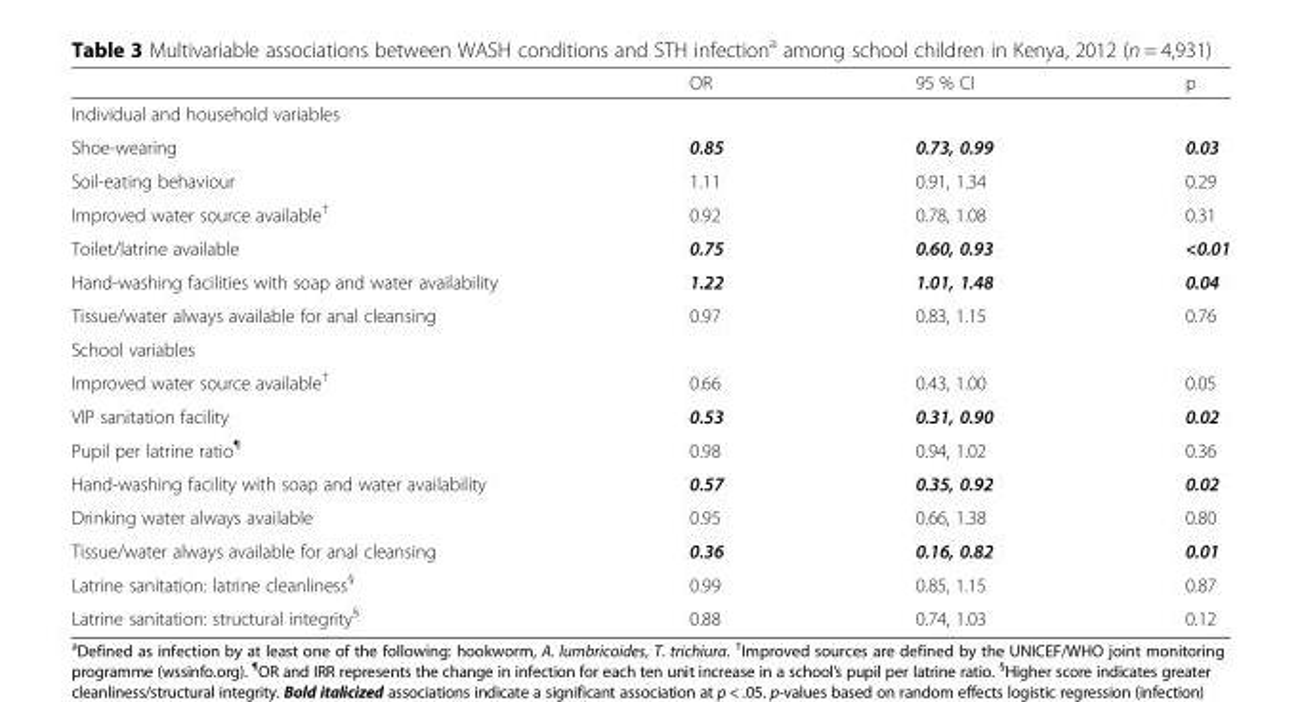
<table><thead><tr><td></td><td>OR</td><td>95 % CI</td><td>p</td></tr></thead><tbody><tr><td colspan="4">Individual and household variables</td></tr><tr><td>Shoe-wearing</td><td>0.85</td><td>0.73, 0.99</td><td>0.03</td></tr><tr><td>Soil-eating behaviour</td><td>1.11</td><td>0.91, 1.34</td><td>0.29</td></tr><tr><td>Improved water source available<sup>†</sup></td><td>0.92</td><td>0.78, 1.08</td><td>0.31</td></tr><tr><td>Toilet/latrine available</td><td>0.75</td><td>0.60, 0.93</td><td>&lt;0.01</td></tr><tr><td>Hand-washing facilities with soap and water availability</td><td>1.22</td><td>1.01, 1.48</td><td>0.04</td></tr><tr><td>Tissue/water always available for anal cleansing</td><td>0.97</td><td>0.83, 1.15</td><td>0.76</td></tr><tr><td colspan="4">School variables</td></tr><tr><td>Improved water source available<sup>†</sup></td><td>0.66</td><td>0.43, 1.00</td><td>0.05</td></tr><tr><td>VIP sanitation facility</td><td>0.53</td><td>0.31, 0.90</td><td>0.02</td></tr><tr><td>Pupil per latrine ratio<sup>¶</sup></td><td>0.98</td><td>0.94, 1.02</td><td>0.36</td></tr><tr><td>Hand-washing facility with soap and water availability</td><td>0.57</td><td>0.35, 0.92</td><td>0.02</td></tr><tr><td>Drinking water always available</td><td>0.95</td><td>0.66, 1.38</td><td>0.80</td></tr><tr><td>Tissue/water always available for anal cleansing</td><td>0.36</td><td>0.16, 0.82</td><td>0.01</td></tr><tr><td>Latrine sanitation: latrine cleanliness<sup>§</sup></td><td>0.99</td><td>0.85, 1.15</td><td>0.87</td></tr><tr><td>Latrine sanitation: structural integrity<sup>§</sup></td><td>0.88</td><td>0.74, 1.03</td><td>0.12</td></tr></tbody></table>